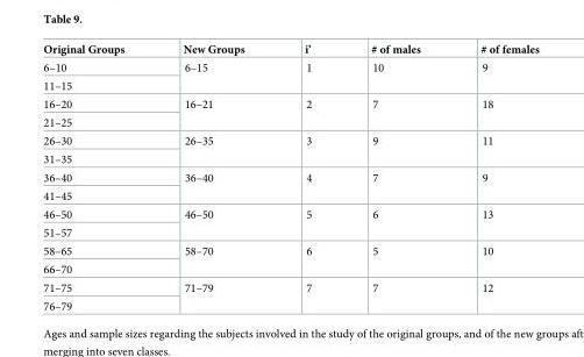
<table><thead><tr><td>Original Groups</td><td>New Groups</td><td>i’</td><td># of males</td><td># of females</td></tr></thead><tbody><tr><td>6–10</td><td rowspan="2">6–15</td><td rowspan="2">1</td><td rowspan="2">10</td><td rowspan="2">9</td></tr><tr><td>11–15</td></tr><tr><td>16–20</td><td rowspan="2">16–21</td><td rowspan="2">2</td><td rowspan="2">7</td><td rowspan="2">18</td></tr><tr><td>21–25</td></tr><tr><td>26–30</td><td rowspan="2">26–35</td><td rowspan="2">3</td><td rowspan="2">9</td><td rowspan="2">11</td></tr><tr><td>31–35</td></tr><tr><td>36–40</td><td rowspan="2">36–40</td><td rowspan="2">4</td><td rowspan="2">7</td><td rowspan="2">9</td></tr><tr><td>41–45</td></tr><tr><td>46–50</td><td rowspan="2">46–50</td><td rowspan="2">5</td><td rowspan="2">6</td><td rowspan="2">13</td></tr><tr><td>51–57</td></tr><tr><td>58–65</td><td rowspan="2">58–70</td><td rowspan="2">6</td><td rowspan="2">5</td><td rowspan="2">10</td></tr><tr><td>66–70</td></tr><tr><td>71–75</td><td rowspan="2">71–79</td><td rowspan="2">7</td><td rowspan="2">7</td><td rowspan="2">12</td></tr><tr><td>76–79</td></tr></tbody></table>